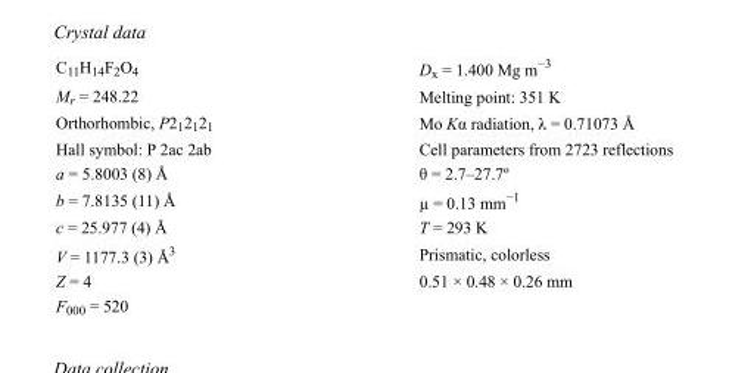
<table><tbody><tr><td>C<sub>11</sub>H<sub>14</sub>F<sub>2</sub>O<sub>4</sub></td><td>D<sub>x</sub> = 1.400 Mg m<sup>−3</sup></td></tr><tr><td>M<sub>r</sub> = 248.22</td><td>Melting point: 351 K</td></tr><tr><td>Orthorhombic, P2<sub>1</sub>2<sub>1</sub>2<sub>1</sub></td><td>Mo Kα radiation, λ = 0.71073 Å</td></tr><tr><td>Hall symbol: P 2ac 2ab</td><td>Cell parameters from 2723 reflections</td></tr><tr><td>a = 5.8003 (8) Å</td><td>θ = 2.7–27.7º</td></tr><tr><td>b = 7.8135 (11) Å</td><td>µ = 0.13 mm<sup>−1</sup></td></tr><tr><td>c = 25.977 (4) Å</td><td>T = 293 K</td></tr><tr><td>V = 1177.3 (3) Å<sup>3</sup></td><td>Prismatic, colorless</td></tr><tr><td>Z = 4</td><td>0.51 × 0.48 × 0.26 mm</td></tr><tr><td>F000 = 520</td><td></td></tr></tbody></table>